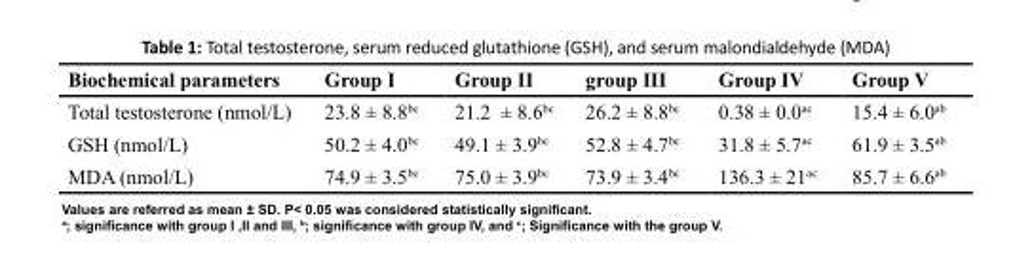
<table><thead><tr><td>Biochemical parameters</td><td>Group I</td><td>Group II</td><td>group III</td><td>Group IV</td><td>Group V</td></tr></thead><tbody><tr><td>Total testosterone (nmol/L)</td><td>23.8 ± 8.8<sup>bc</sup></td><td>21.2 ± 8.6<sup>bc</sup></td><td>26.2 ± 8.8<sup>bc</sup></td><td>0.38 ± 0.0<sup>ac</sup></td><td>15.4 ± 6.0<sup>ab</sup></td></tr><tr><td>GSH (nmol/L)</td><td>50.2 ± 4.0<sup>bc</sup></td><td>49.1 ± 3.9<sup>bc</sup></td><td>52.8 ± 4.7<sup>bc</sup></td><td>31.8 ± 5.7<sup>ac</sup></td><td>61.9 ± 3.5<sup>ab</sup></td></tr><tr><td>MDA (nmol/L)</td><td>74.9 ± 3.5<sup>bc</sup></td><td>75.0 ± 3.9<sup>bc</sup></td><td>73.9 ± 3.4<sup>bc</sup></td><td>136.3 ± 21<sup>ac</sup></td><td>85.7 ± 6.6<sup>ab</sup></td></tr></tbody></table>